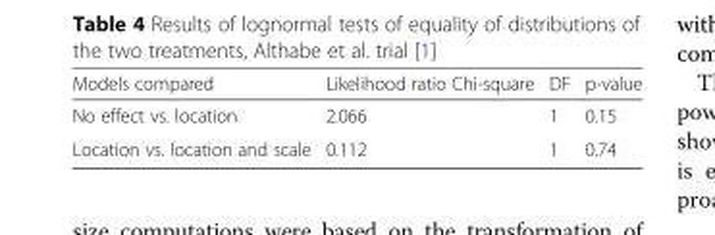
<table><thead><tr><td>Models compared</td><td>Likelihood ratio Chi-square</td><td>DF</td><td>p-value</td></tr></thead><tbody><tr><td>No effect vs. location</td><td>2.066</td><td>1</td><td>0.15</td></tr><tr><td>Location vs. location and scale</td><td>0.112</td><td>1</td><td>0.74</td></tr></tbody></table>